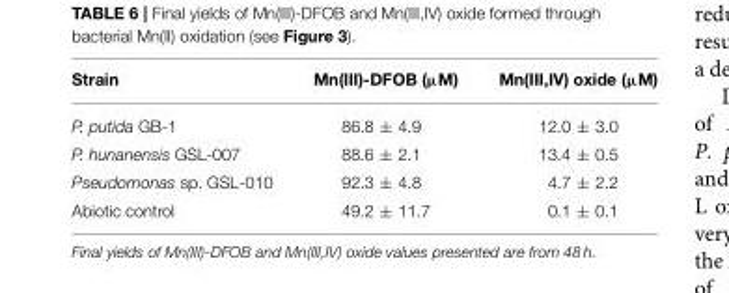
<table><thead><tr><td>Strain</td><td>Mn(III)-DFOB (µM)</td><td>Mn(III,IV) oxide (µM)</td></tr></thead><tbody><tr><td>P. putida GB-1</td><td>86.8 ± 4.9</td><td>12.0 ± 3.0</td></tr><tr><td>P. hunanensis GSL-007</td><td>88.6 ± 2.1</td><td>13.4 ± 0.5</td></tr><tr><td>Pseudomonas sp. GSL-010</td><td>92.3 ± 4.8</td><td>4.7 ± 2.2</td></tr><tr><td>Abiotic control</td><td>49.2 ± 11.7</td><td>0.1 ± 0.1</td></tr></tbody></table>